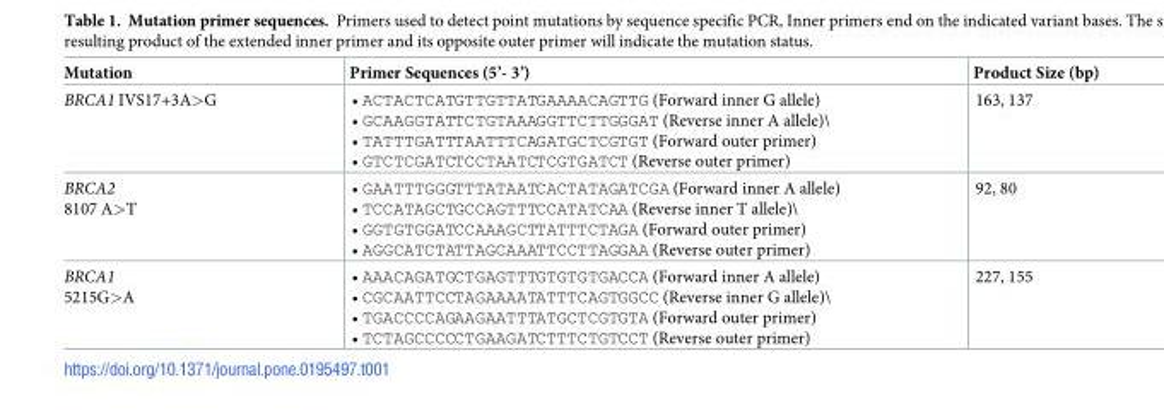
<table><thead><tr><td>Mutation</td><td>Primer Sequences (5’- 3’)</td><td>Product Size (bp)</td></tr></thead><tbody><tr><td>BRCA1 IVS17+3A&gt;G</td><td>• ACTACTCATGTTGTTATGAAAACAGTTG (Forward inner G allele) • GCAAGGTATTCTGTAAAGGTTCTTGGGAT (Reverse inner A allele)\ • TATTTGATTTAATTTCAGATGCTCGTGT (Forward outer primer) • GTCTCGATCTCCTAATCTCGTGATCT (Reverse outer primer)</td><td>163, 137</td></tr><tr><td>BRCA2 8107 A&gt;T</td><td>• GAATTTGGGTTTATAATCACTATAGATCGA (Forward inner A allele) • TCCATAGCTGCCAGTTTCCATATCAA (Reverse inner T allele)\ • GGTGTGGATCCAAAGCTTATTTCTAGA (Forward outer primer) • AGGCATCTATTAGCAAATTCCTTAGGAA (Reverse outer primer)</td><td>92, 80</td></tr><tr><td>BRCA1 5215G&gt;A</td><td>• AAACAGATGCTGAGTTTGTGTGTGACCA (Forward inner A allele) • CGCAATTCCTAGAAAATATTTCAGTGGCC (Reverse inner G allele)\ • TGACCCCAGAAGAATTTATGCTCGTGTA (Forward outer primer) • TCTAGCCCCCTGAAGATCTTTCTGTCCT (Reverse outer primer)</td><td>227, 155</td></tr></tbody></table>